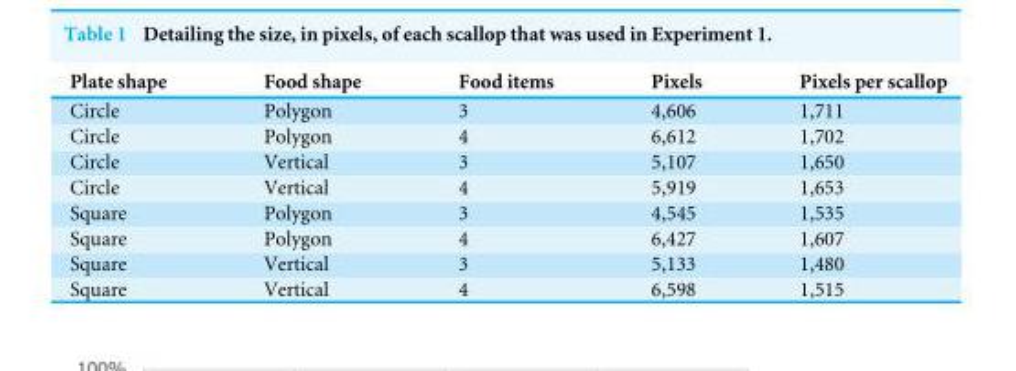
<table><thead><tr><td>Plate shape</td><td>Food shape</td><td>Food items</td><td>Pixels</td><td>Pixels per scallop</td></tr></thead><tbody><tr><td>Circle</td><td>Polygon</td><td>3</td><td>4,606</td><td>1,711</td></tr><tr><td>Circle</td><td>Polygon</td><td>4</td><td>6,612</td><td>1,702</td></tr><tr><td>Circle</td><td>Vertical</td><td>3</td><td>5,107</td><td>1,650</td></tr><tr><td>Circle</td><td>Vertical</td><td>4</td><td>5,919</td><td>1,653</td></tr><tr><td>Square</td><td>Polygon</td><td>3</td><td>4,545</td><td>1,535</td></tr><tr><td>Square</td><td>Polygon</td><td>4</td><td>6,427</td><td>1,607</td></tr><tr><td>Square</td><td>Vertical</td><td>3</td><td>5,133</td><td>1,480</td></tr><tr><td>Square</td><td>Vertical</td><td>4</td><td>6,598</td><td>1,515</td></tr></tbody></table>